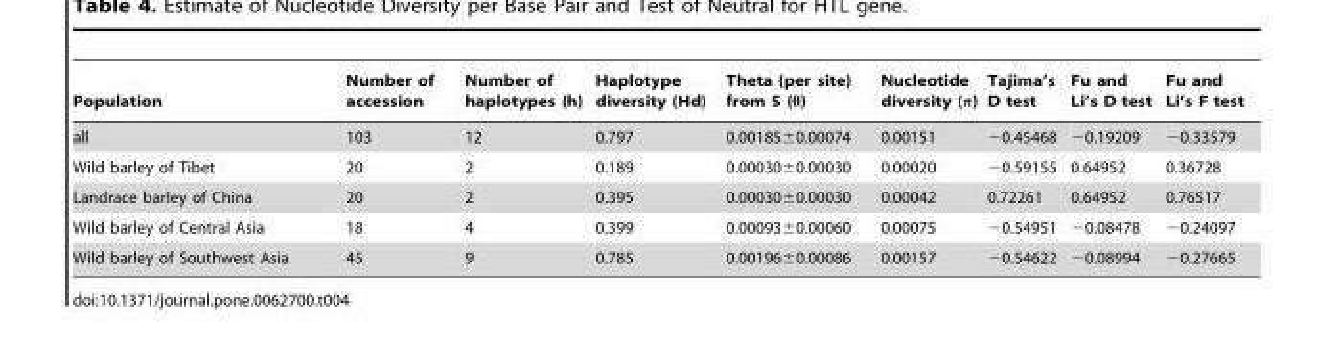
<table><thead><tr><td>Population</td><td>Number of accession</td><td>Number of haplotypes (h)</td><td>Haplotype diversity (Hd)</td><td>Theta (per site) from S (θ)</td><td>Nucleotide diversity (π)</td><td>Tajima’s D test</td><td>Fu and Li’s D test</td><td>Fu and Li’s F test</td></tr></thead><tbody><tr><td>all</td><td>103</td><td>12</td><td>0.797</td><td>0.00185±0.00074</td><td>0.00151</td><td>−0.45468</td><td>−0.19209</td><td>−0.33579</td></tr><tr><td>Wild barley of Tibet</td><td>20</td><td>2</td><td>0.189</td><td>0.00030±0.00030</td><td>0.00020</td><td>−0.59155</td><td>0.64952</td><td>0.36728</td></tr><tr><td>Landrace barley of China</td><td>20</td><td>2</td><td>0.395</td><td>0.00030±0.00030</td><td>0.00042</td><td>0.72261</td><td>0.64952</td><td>0.76517</td></tr><tr><td>Wild barley of Central Asia</td><td>18</td><td>4</td><td>0.399</td><td>0.00093±0.00060</td><td>0.00075</td><td>−0.54951</td><td>−0.08478</td><td>−0.24097</td></tr><tr><td>Wild barley of Southwest Asia</td><td>45</td><td>9</td><td>0.785</td><td>0.00196±0.00086</td><td>0.00157</td><td>−0.54622</td><td>−0.08994</td><td>−0.27665</td></tr></tbody></table>